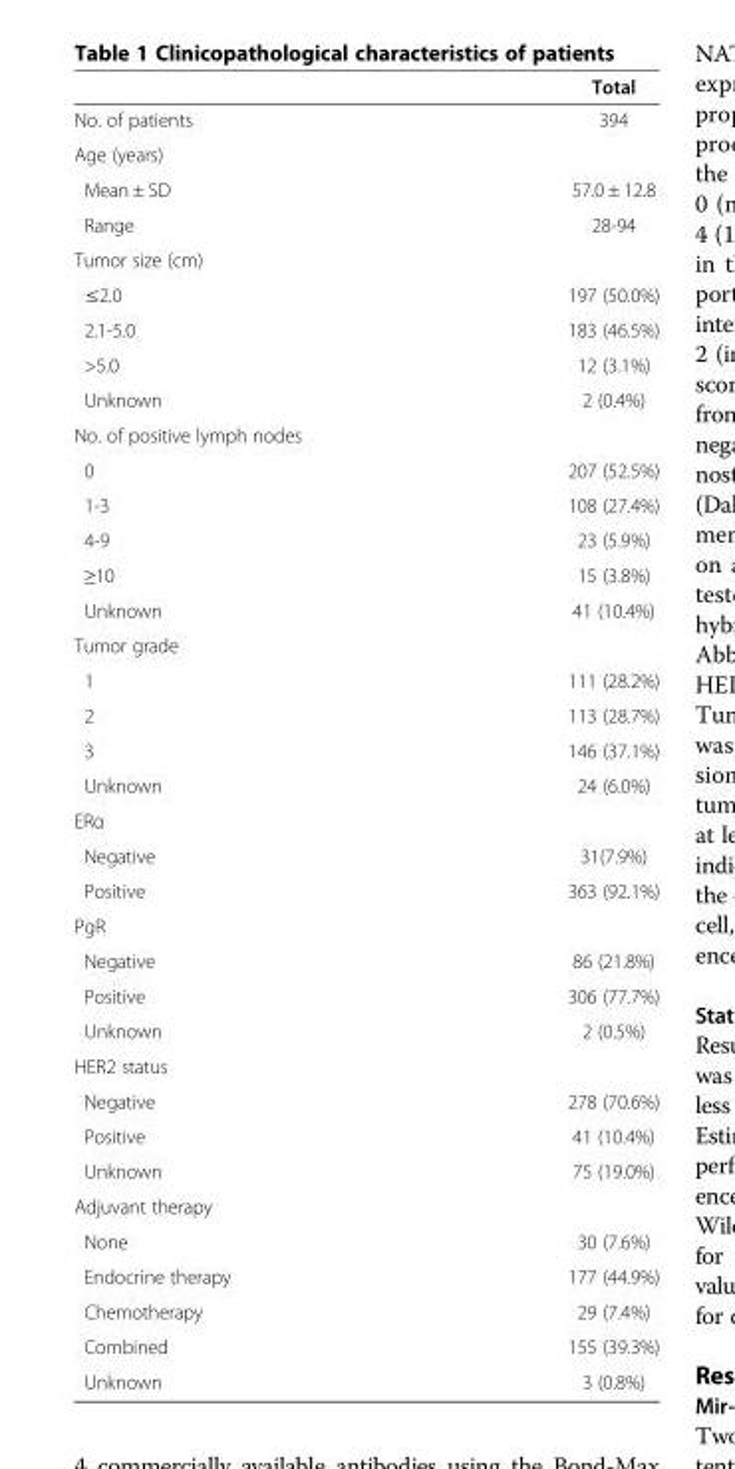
<table><thead><tr><td></td><td>Total</td></tr></thead><tbody><tr><td>No. of patients</td><td>394</td></tr><tr><td colspan="2">Age (years)</td></tr><tr><td>Mean ± SD</td><td>57.0 ± 12.8</td></tr><tr><td>Range</td><td>28-94</td></tr><tr><td colspan="2">Tumor size (cm)</td></tr><tr><td>≤2.0</td><td>197 (50.0%)</td></tr><tr><td>2.1-5.0</td><td>183 (46.5%)</td></tr><tr><td>&gt;5.0</td><td>12 (3.1%)</td></tr><tr><td>Unknown</td><td>2 (0.4%)</td></tr><tr><td colspan="2">No. of positive lymph nodes</td></tr><tr><td>0</td><td>207 (52.5%)</td></tr><tr><td>1-3</td><td>108 (27.4%)</td></tr><tr><td>4-9</td><td>23 (5.9%)</td></tr><tr><td>≥10</td><td>15 (3.8%)</td></tr><tr><td>Unknown</td><td>41 (10.4%)</td></tr><tr><td colspan="2">Tumor grade</td></tr><tr><td>1</td><td>111 (28.2%)</td></tr><tr><td>2</td><td>113 (28.7%)</td></tr><tr><td>3</td><td>146 (37.1%)</td></tr><tr><td>Unknown</td><td>24 (6.0%)</td></tr><tr><td colspan="2">ERα</td></tr><tr><td>Negative</td><td>31(7.9%)</td></tr><tr><td>Positive</td><td>363 (92.1%)</td></tr><tr><td colspan="2">PgR</td></tr><tr><td>Negative</td><td>86 (21.8%)</td></tr><tr><td>Positive</td><td>306 (77.7%)</td></tr><tr><td>Unknown</td><td>2 (0.5%)</td></tr><tr><td colspan="2">HER2 status</td></tr><tr><td>Negative</td><td>278 (70.6%)</td></tr><tr><td>Positive</td><td>41 (10.4%)</td></tr><tr><td>Unknown</td><td>75 (19.0%)</td></tr><tr><td colspan="2">Adjuvant therapy</td></tr><tr><td>None</td><td>30 (7.6%)</td></tr><tr><td>Endocrine therapy</td><td>177 (44.9%)</td></tr><tr><td>Chemotherapy</td><td>29 (7.4%)</td></tr><tr><td>Combined</td><td>155 (39.3%)</td></tr><tr><td>Unknown</td><td>3 (0.8%)</td></tr></tbody></table>